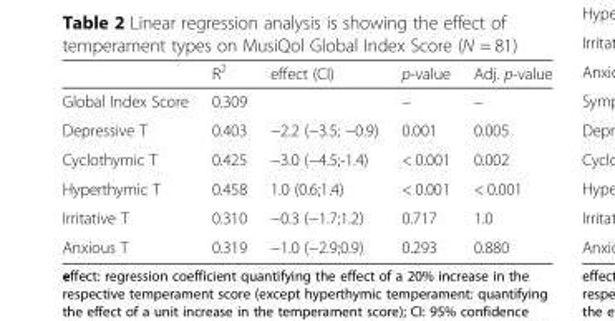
<table><thead><tr><td></td><td>R<sup>2</sup></td><td>effect (CI)</td><td>p-value</td><td>Adj. p-value</td></tr></thead><tbody><tr><td>Global Index Score</td><td>0.309</td><td></td><td>–</td><td>–</td></tr><tr><td>Depressive T</td><td>0.403</td><td>−2.2 (−3.5; −0.9)</td><td>0.001</td><td>0.005</td></tr><tr><td>Cyclothymic T</td><td>0.425</td><td>−3.0 (−4.5;-1.4)</td><td>&lt; 0.001</td><td>0.002</td></tr><tr><td>Hyperthymic T</td><td>0.458</td><td>1.0 (0.6;1.4)</td><td>&lt; 0.001</td><td>&lt; 0.001</td></tr><tr><td>Irritative T</td><td>0.310</td><td>−0.3 (−1.7;1.2)</td><td>0.717</td><td>1.0</td></tr><tr><td>Anxious T</td><td>0.319</td><td>−1.0 (−2.9;0.9)</td><td>0.293</td><td>0.880</td></tr></tbody></table>